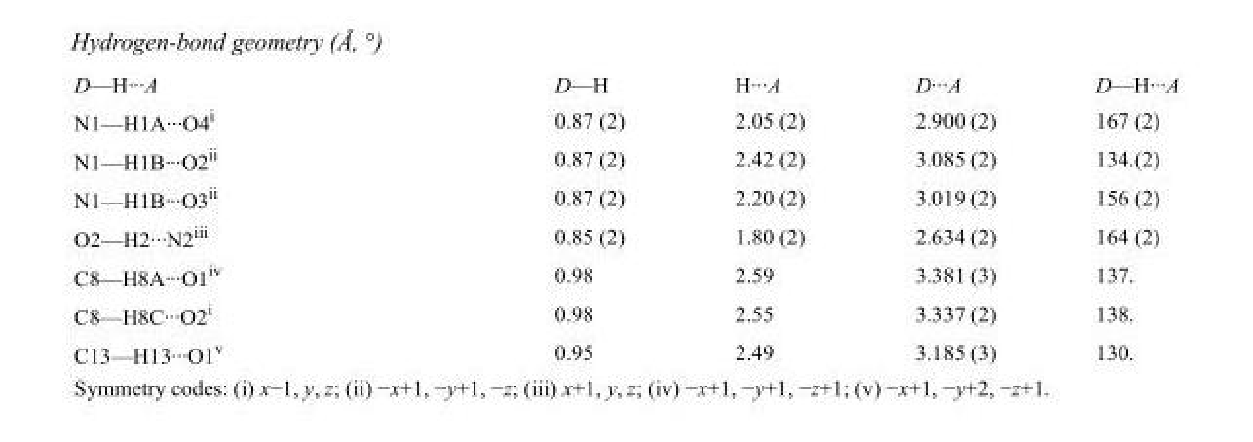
<table><tbody><tr><td>D—H···A</td><td>D—H</td><td>H···A</td><td>D···A</td><td>D—H···A</td></tr><tr><td>N1—H1A···O4<sup>i</sup></td><td>0.87 (2)</td><td>2.05 (2)</td><td>2.900 (2)</td><td>167 (2)</td></tr><tr><td>N1—H1B···O2<sup>ii</sup></td><td>0.87 (2)</td><td>2.42 (2)</td><td>3.085 (2)</td><td>134.(2)</td></tr><tr><td>N1—H1B···O3<sup>ii</sup></td><td>0.87 (2)</td><td>2.20 (2)</td><td>3.019 (2)</td><td>156 (2)</td></tr><tr><td>O2—H2···N2<sup>iii</sup></td><td>0.85 (2)</td><td>1.80 (2)</td><td>2.634 (2)</td><td>164 (2)</td></tr><tr><td>C8—H8A···O1<sup>iv</sup></td><td>0.98</td><td>2.59</td><td>3.381 (3)</td><td>137.</td></tr><tr><td>C8—H8C···O2<sup>i</sup></td><td>0.98</td><td>2.55</td><td>3.337 (2)</td><td>138.</td></tr><tr><td>C13—H13···O1<sup>v</sup></td><td>0.95</td><td>2.49</td><td>3.185 (3)</td><td>130.</td></tr></tbody></table>